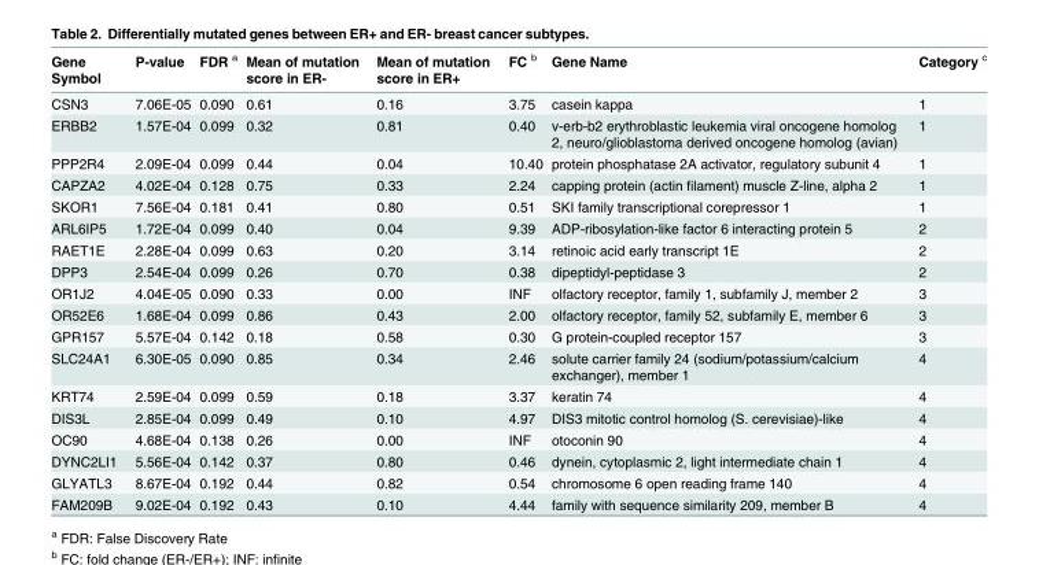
<table><thead><tr><td>Gene Symbol</td><td>P-value</td><td>FDR <sup>a</sup></td><td>Mean of mutation score in ER-</td><td>Mean of mutation score in ER+</td><td>FC <sup>b</sup></td><td>Gene Name</td><td>Category <sup>c</sup></td></tr></thead><tbody><tr><td>CSN3</td><td>7.06E-05</td><td>0.090</td><td>0.61</td><td>0.16</td><td>3.75</td><td>casein kappa</td><td>1</td></tr><tr><td>ERBB2</td><td>1.57E-04</td><td>0.099</td><td>0.32</td><td>0.81</td><td>0.40</td><td>v-erb-b2 erythroblastic leukemia viral oncogene homolog 2, neuro/glioblastoma derived oncogene homolog (avian)</td><td>1</td></tr><tr><td>PPP2R4</td><td>2.09E-04</td><td>0.099</td><td>0.44</td><td>0.04</td><td>10.40</td><td>protein phosphatase 2A activator, regulatory subunit 4</td><td>1</td></tr><tr><td>CAPZA2</td><td>4.02E-04</td><td>0.128</td><td>0.75</td><td>0.33</td><td>2.24</td><td>capping protein (actin filament) muscle Z-line, alpha 2</td><td>1</td></tr><tr><td>SKOR1</td><td>7.56E-04</td><td>0.181</td><td>0.41</td><td>0.80</td><td>0.51</td><td>SKI family transcriptional corepressor 1</td><td>1</td></tr><tr><td>ARL6IP5</td><td>1.72E-04</td><td>0.099</td><td>0.40</td><td>0.04</td><td>9.39</td><td>ADP-ribosylation-like factor 6 interacting protein 5</td><td>2</td></tr><tr><td>RAET1E</td><td>2.28E-04</td><td>0.099</td><td>0.63</td><td>0.20</td><td>3.14</td><td>retinoic acid early transcript 1E</td><td>2</td></tr><tr><td>DPP3</td><td>2.54E-04</td><td>0.099</td><td>0.26</td><td>0.70</td><td>0.38</td><td>dipeptidyl-peptidase 3</td><td>2</td></tr><tr><td>OR1J2</td><td>4.04E-05</td><td>0.090</td><td>0.33</td><td>0.00</td><td>INF</td><td>olfactory receptor, family 1, subfamily J, member 2</td><td>3</td></tr><tr><td>OR52E6</td><td>1.68E-04</td><td>0.099</td><td>0.86</td><td>0.43</td><td>2.00</td><td>olfactory receptor, family 52, subfamily E, member 6</td><td>3</td></tr><tr><td>GPR157</td><td>5.57E-04</td><td>0.142</td><td>0.18</td><td>0.58</td><td>0.30</td><td>G protein-coupled receptor 157</td><td>3</td></tr><tr><td>SLC24A1</td><td>6.30E-05</td><td>0.090</td><td>0.85</td><td>0.34</td><td>2.46</td><td>solute carrier family 24 (sodium/potassium/calcium exchanger), member 1</td><td>4</td></tr><tr><td>KRT74</td><td>2.59E-04</td><td>0.099</td><td>0.59</td><td>0.18</td><td>3.37</td><td>keratin 74</td><td>4</td></tr><tr><td>DIS3L</td><td>2.85E-04</td><td>0.099</td><td>0.49</td><td>0.10</td><td>4.97</td><td>DIS3 mitotic control homolog (S. cerevisiae)-like</td><td>4</td></tr><tr><td>OC90</td><td>4.68E-04</td><td>0.138</td><td>0.26</td><td>0.00</td><td>INF</td><td>otoconin 90</td><td>4</td></tr><tr><td>DYNC2LI1</td><td>5.56E-04</td><td>0.142</td><td>0.37</td><td>0.80</td><td>0.46</td><td>dynein, cytoplasmic 2, light intermediate chain 1</td><td>4</td></tr><tr><td>GLYATL3</td><td>8.67E-04</td><td>0.192</td><td>0.44</td><td>0.82</td><td>0.54</td><td>chromosome 6 open reading frame 140</td><td>4</td></tr><tr><td>FAM209B</td><td>9.02E-04</td><td>0.192</td><td>0.43</td><td>0.10</td><td>4.44</td><td>family with sequence similarity 209, member B</td><td>4</td></tr></tbody></table>